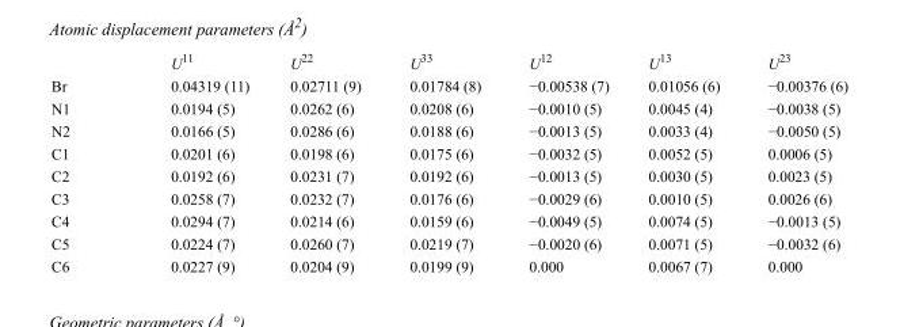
<table><thead><tr><td></td><td>U<sup>11</sup></td><td>U<sup>22</sup></td><td>U<sup>33</sup></td><td>U<sup>12</sup></td><td>U<sup>13</sup></td><td>U<sup>23</sup></td></tr></thead><tbody><tr><td>Br</td><td>0.04319 (11)</td><td>0.02711 (9)</td><td>0.01784 (8)</td><td>−0.00538 (7)</td><td>0.01056 (6)</td><td>−0.00376 (6)</td></tr><tr><td>N1</td><td>0.0194 (5)</td><td>0.0262 (6)</td><td>0.0208 (6)</td><td>−0.0010 (5)</td><td>0.0045 (4)</td><td>−0.0038 (5)</td></tr><tr><td>N2</td><td>0.0166 (5)</td><td>0.0286 (6)</td><td>0.0188 (6)</td><td>−0.0013 (5)</td><td>0.0033 (4)</td><td>−0.0050 (5)</td></tr><tr><td>C1</td><td>0.0201 (6)</td><td>0.0198 (6)</td><td>0.0175 (6)</td><td>−0.0032 (5)</td><td>0.0052 (5)</td><td>0.0006 (5)</td></tr><tr><td>C2</td><td>0.0192 (6)</td><td>0.0231 (7)</td><td>0.0192 (6)</td><td>−0.0013 (5)</td><td>0.0030 (5)</td><td>0.0023 (5)</td></tr><tr><td>C3</td><td>0.0258 (7)</td><td>0.0232 (7)</td><td>0.0176 (6)</td><td>−0.0029 (6)</td><td>0.0010 (5)</td><td>0.0026 (6)</td></tr><tr><td>C4</td><td>0.0294 (7)</td><td>0.0214 (6)</td><td>0.0159 (6)</td><td>−0.0049 (5)</td><td>0.0074 (5)</td><td>−0.0013 (5)</td></tr><tr><td>C5</td><td>0.0224 (7)</td><td>0.0260 (7)</td><td>0.0219 (7)</td><td>−0.0020 (6)</td><td>0.0071 (5)</td><td>−0.0032 (6)</td></tr><tr><td>C6</td><td>0.0227 (9)</td><td>0.0204 (9)</td><td>0.0199 (9)</td><td>0.000</td><td>0.0067 (7)</td><td>0.000</td></tr></tbody></table>